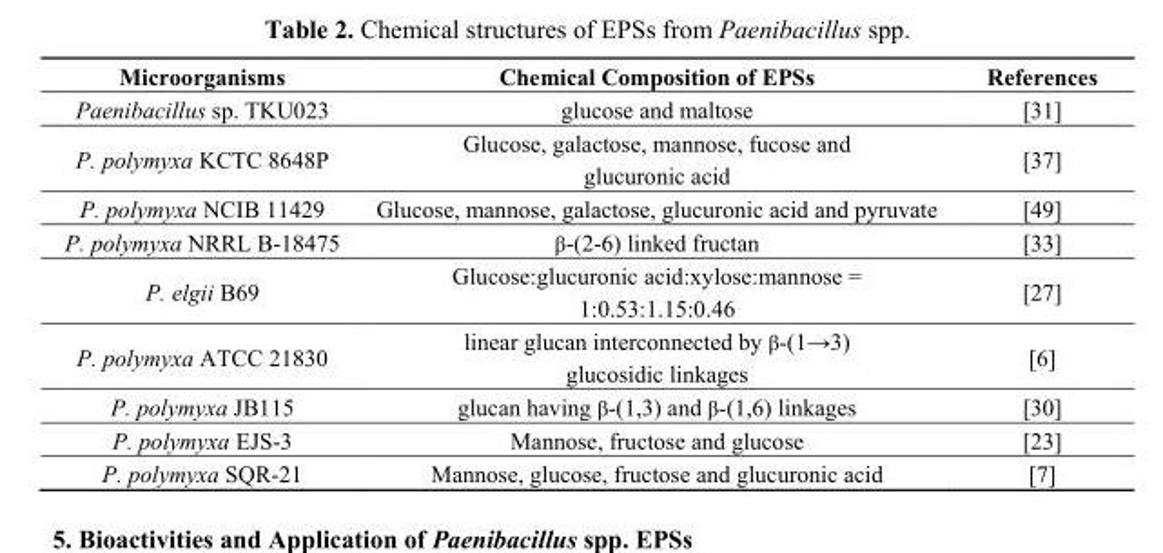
<table><thead><tr><td>Microorganisms</td><td>Chemical Composition of EPSs</td><td>References</td></tr></thead><tbody><tr><td>Paenibacillus sp. TKU023</td><td>glucose and maltose</td><td>[31]</td></tr><tr><td>P. polymyxa KCTC 8648P</td><td>Glucose, galactose, mannose, fucose and glucuronic acid</td><td>[37]</td></tr><tr><td>P. polymyxa NCIB 11429</td><td>Glucose, mannose, galactose, glucuronic acid and pyruvate</td><td>[49]</td></tr><tr><td>P. polymyxa NRRL B-18475</td><td>β-(2-6) linked fructan</td><td>[33]</td></tr><tr><td>P. elgii B69</td><td>Glucose:glucuronic acid:xylose:mannose = 1:0.53:1.15:0.46</td><td>[27]</td></tr><tr><td>P. polymyxa ATCC 21830</td><td>linear glucan interconnected by β-(1→3) glucosidic linkages</td><td>[6]</td></tr><tr><td>P. polymyxa JB115</td><td>glucan having β-(1,3) and β-(1,6) linkages</td><td>[30]</td></tr><tr><td>P. polymyxa EJS-3</td><td>Mannose, fructose and glucose</td><td>[23]</td></tr><tr><td>P. polymyxa SQR-21</td><td>Mannose, glucose, fructose and glucuronic acid</td><td>[7]</td></tr></tbody></table>